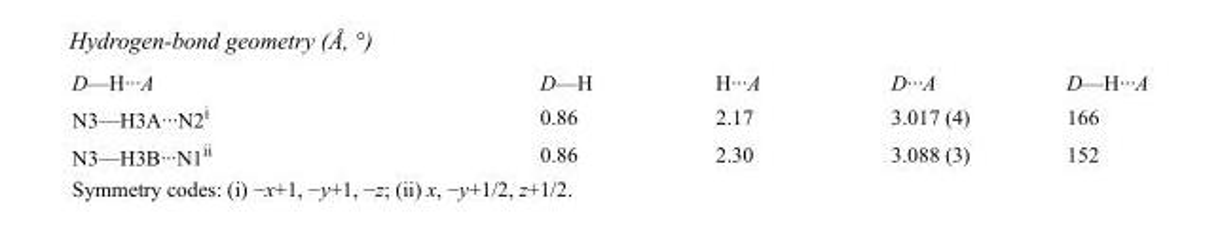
<table><tbody><tr><td>D—H···A</td><td>D—H</td><td>H···A</td><td>D···A</td><td>D—H···A</td></tr><tr><td>N3—H3A···N2<sup>i</sup></td><td>0.86</td><td>2.17</td><td>3.017 (4)</td><td>166</td></tr><tr><td>N3—H3B···N1<sup>ii</sup></td><td>0.86</td><td>2.30</td><td>3.088 (3)</td><td>152</td></tr></tbody></table>